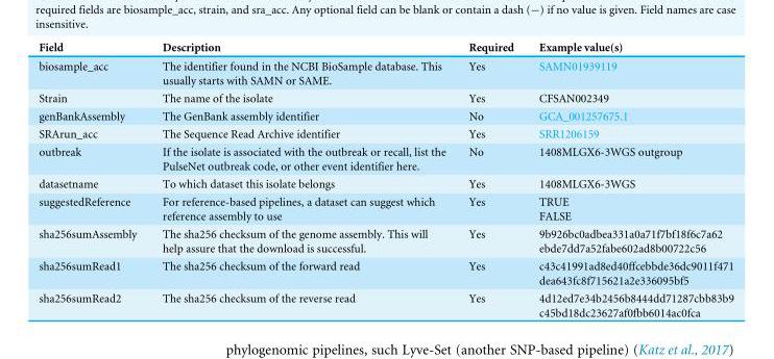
<table><thead><tr><td>Field</td><td>Description</td><td>Required</td><td>Example value(s)</td></tr></thead><tbody><tr><td>biosample_acc</td><td>The identifier found in the NCBI BioSample database. This usually starts with SAMN or SAME.</td><td>Yes</td><td>SAMN01939119</td></tr><tr><td>Strain</td><td>The name of the isolate</td><td>Yes</td><td>CFSAN002349</td></tr><tr><td>genBankAssembly</td><td>The GenBank assembly identifier</td><td>No</td><td>GCA_001257675.1</td></tr><tr><td>SRArun_acc</td><td>The Sequence Read Archive identifier</td><td>Yes</td><td>SRR1206159</td></tr><tr><td>outbreak</td><td>If the isolate is associated with the outbreak or recall, list the PulseNet outbreak code, or other event identifier here.</td><td>No</td><td>1408MLGX6-3WGS outgroup</td></tr><tr><td>datasetname</td><td>To which dataset this isolate belongs</td><td>Yes</td><td>1408MLGX6-3WGS</td></tr><tr><td>suggestedReference</td><td>For reference-based pipelines, a dataset can suggest which reference assembly to use</td><td>Yes</td><td>TRUE FALSE</td></tr><tr><td>sha256sumAssembly</td><td>The sha256 checksum of the genome assembly. This will help assure that the download is successful.</td><td>Yes</td><td>9b926bc0adbea331a0a71f7bf18f6c7a62 ebde7dd7a52fabe602ad8b00722c56</td></tr><tr><td>sha256sumRead1</td><td>The sha256 checksum of the forward read</td><td>Yes</td><td>c43c41991ad8ed40ffcebbde36dc9011f471 dea643fc8f715621a2e336095bf5</td></tr><tr><td>sha256sumRead2</td><td>The sha256 checksum of the reverse read</td><td>Yes</td><td>4d12ed7e34b2456b8444dd71287cbb83b9 c45bd18dc23627af0fbb6014ac0fca</td></tr></tbody></table>